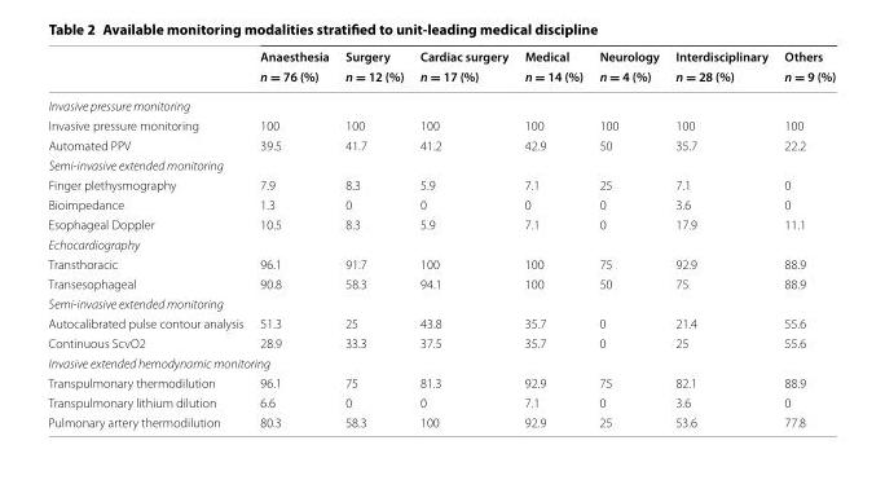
<table><thead><tr><td rowspan="2"></td><td rowspan="2">Anaesthesia n = 76 (%)</td><td rowspan="2">Surgery n = 12 (%)</td><td rowspan="2">Cardiac surgery n = 17 (%)</td><td rowspan="2">Medical n = 14 (%)</td><td rowspan="2">Neurology n = 4 (%)</td><td rowspan="2">Interdisciplinary n = 28 (%)</td><td rowspan="2">Others n = 9 (%)</td></tr><tr></tr></thead><tbody><tr><td colspan="8">Invasive pressure monitoring</td></tr><tr><td>Invasive pressure monitoring</td><td>100</td><td>100</td><td>100</td><td>100</td><td>100</td><td>100</td><td>100</td></tr><tr><td>Automated PPV</td><td>39.5</td><td>41.7</td><td>41.2</td><td>42.9</td><td>50</td><td>35.7</td><td>22.2</td></tr><tr><td colspan="8">Semi-invasive extended monitoring</td></tr><tr><td>Finger plethysmography</td><td>7.9</td><td>8.3</td><td>5.9</td><td>7.1</td><td>25</td><td>7.1</td><td>0</td></tr><tr><td>Bioimpedance</td><td>1.3</td><td>0</td><td>0</td><td>0</td><td>0</td><td>3.6</td><td>0</td></tr><tr><td>Esophageal Doppler</td><td>10.5</td><td>8.3</td><td>5.9</td><td>7.1</td><td>0</td><td>17.9</td><td>11.1</td></tr><tr><td colspan="8">Echocardiography</td></tr><tr><td>Transthoracic</td><td>96.1</td><td>91.7</td><td>100</td><td>100</td><td>75</td><td>92.9</td><td>88.9</td></tr><tr><td>Transesophageal</td><td>90.8</td><td>58.3</td><td>94.1</td><td>100</td><td>50</td><td>75</td><td>88.9</td></tr><tr><td colspan="8">Semi-invasive extended monitoring</td></tr><tr><td>Autocalibrated pulse contour analysis</td><td>51.3</td><td>25</td><td>43.8</td><td>35.7</td><td>0</td><td>21.4</td><td>55.6</td></tr><tr><td>Continuous ScvO2</td><td>28.9</td><td>33.3</td><td>37.5</td><td>35.7</td><td>0</td><td>25</td><td>55.6</td></tr><tr><td colspan="8">Invasive extended hemodynamic monitoring</td></tr><tr><td>Transpulmonary thermodilution</td><td>96.1</td><td>75</td><td>81.3</td><td>92.9</td><td>75</td><td>82.1</td><td>88.9</td></tr><tr><td>Transpulmonary lithium dilution</td><td>6.6</td><td>0</td><td>0</td><td>7.1</td><td>0</td><td>3.6</td><td>0</td></tr><tr><td>Pulmonary artery thermodilution</td><td>80.3</td><td>58.3</td><td>100</td><td>92.9</td><td>25</td><td>53.6</td><td>77.8</td></tr></tbody></table>